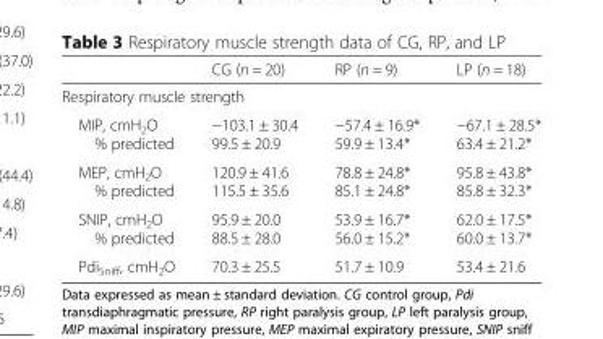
<table><thead><tr><td></td><td>CG (n = 20)</td><td>RP (n = 9)</td><td>LP (n = 18)</td></tr></thead><tbody><tr><td colspan="4">Respiratory muscle strength</td></tr><tr><td>MIP, cmH<sub>2</sub>O % predicted</td><td>−103.1 ± 30.4 99.5 ± 20.9</td><td>−57.4 ± 16.9* 59.9 ± 13.4*</td><td>−67.1 ± 28.5* 63.4 ± 21.2*</td></tr><tr><td>MEP, cmH<sub>2</sub>O % predicted</td><td>120.9 ± 41.6 115.5 ± 35.6</td><td>78.8 ± 24.8* 85.1 ± 24.8*</td><td>95.8 ± 43.8* 85.8 ± 32.3*</td></tr><tr><td>SNIP, cmH<sub>2</sub>O % predicted</td><td>95.9 ± 20.0 88.5 ± 28.0</td><td>53.9 ± 16.7* 56.0 ± 15.2*</td><td>62.0 ± 17.5* 60.0 ± 13.7*</td></tr><tr><td>Pdi<sub>Sniff</sub>, cmH<sub>2</sub>O</td><td>70.3 ± 25.5</td><td>51.7 ± 10.9</td><td>53.4 ± 21.6</td></tr></tbody></table>